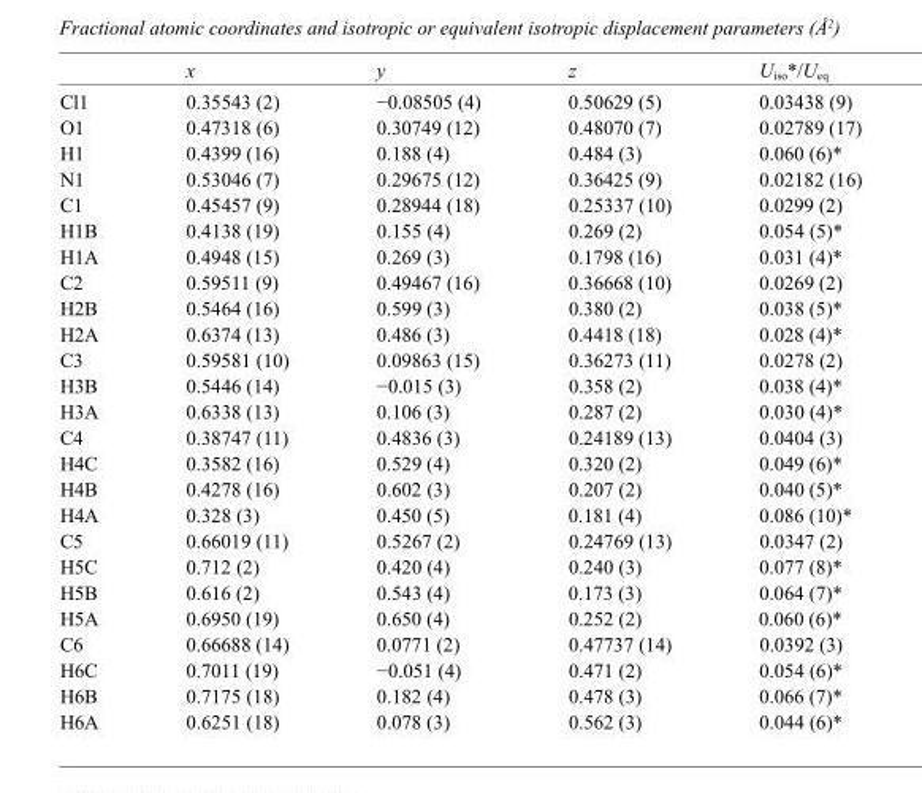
<table><thead><tr><td></td><td>x</td><td>y</td><td>z</td><td>U<sub>iso</sub>*/U<sub>eq</sub></td></tr></thead><tbody><tr><td>Cl1</td><td>0.35543 (2)</td><td>−0.08505 (4)</td><td>0.50629 (5)</td><td>0.03438 (9)</td></tr><tr><td>O1</td><td>0.47318 (6)</td><td>0.30749 (12)</td><td>0.48070 (7)</td><td>0.02789 (17)</td></tr><tr><td>H1</td><td>0.4399 (16)</td><td>0.188 (4)</td><td>0.484 (3)</td><td>0.060 (6)*</td></tr><tr><td>N1</td><td>0.53046 (7)</td><td>0.29675 (12)</td><td>0.36425 (9)</td><td>0.02182 (16)</td></tr><tr><td>C1</td><td>0.45457 (9)</td><td>0.28944 (18)</td><td>0.25337 (10)</td><td>0.0299 (2)</td></tr><tr><td>H1B</td><td>0.4138 (19)</td><td>0.155 (4)</td><td>0.269 (2)</td><td>0.054 (5)*</td></tr><tr><td>H1A</td><td>0.4948 (15)</td><td>0.269 (3)</td><td>0.1798 (16)</td><td>0.031 (4)*</td></tr><tr><td>C2</td><td>0.59511 (9)</td><td>0.49467 (16)</td><td>0.36668 (10)</td><td>0.0269 (2)</td></tr><tr><td>H2B</td><td>0.5464 (16)</td><td>0.599 (3)</td><td>0.380 (2)</td><td>0.038 (5)*</td></tr><tr><td>H2A</td><td>0.6374 (13)</td><td>0.486 (3)</td><td>0.4418 (18)</td><td>0.028 (4)*</td></tr><tr><td>C3</td><td>0.59581 (10)</td><td>0.09863 (15)</td><td>0.36273 (11)</td><td>0.0278 (2)</td></tr><tr><td>H3B</td><td>0.5446 (14)</td><td>−0.015 (3)</td><td>0.358 (2)</td><td>0.038 (4)*</td></tr><tr><td>H3A</td><td>0.6338 (13)</td><td>0.106 (3)</td><td>0.287 (2)</td><td>0.030 (4)*</td></tr><tr><td>C4</td><td>0.38747 (11)</td><td>0.4836 (3)</td><td>0.24189 (13)</td><td>0.0404 (3)</td></tr><tr><td>H4C</td><td>0.3582 (16)</td><td>0.529 (4)</td><td>0.320 (2)</td><td>0.049 (6)*</td></tr><tr><td>H4B</td><td>0.4278 (16)</td><td>0.602 (3)</td><td>0.207 (2)</td><td>0.040 (5)*</td></tr><tr><td>H4A</td><td>0.328 (3)</td><td>0.450 (5)</td><td>0.181 (4)</td><td>0.086 (10)*</td></tr><tr><td>C5</td><td>0.66019 (11)</td><td>0.5267 (2)</td><td>0.24769 (13)</td><td>0.0347 (2)</td></tr><tr><td>H5C</td><td>0.712 (2)</td><td>0.420 (4)</td><td>0.240 (3)</td><td>0.077 (8)*</td></tr><tr><td>H5B</td><td>0.616 (2)</td><td>0.543 (4)</td><td>0.173 (3)</td><td>0.064 (7)*</td></tr><tr><td>H5A</td><td>0.6950 (19)</td><td>0.650 (4)</td><td>0.252 (2)</td><td>0.060 (6)*</td></tr><tr><td>C6</td><td>0.66688 (14)</td><td>0.0771 (2)</td><td>0.47737 (14)</td><td>0.0392 (3)</td></tr><tr><td>H6C</td><td>0.7011 (19)</td><td>−0.051 (4)</td><td>0.471 (2)</td><td>0.054 (6)*</td></tr><tr><td>H6B</td><td>0.7175 (18)</td><td>0.182 (4)</td><td>0.478 (3)</td><td>0.066 (7)*</td></tr><tr><td>H6A</td><td>0.6251 (18)</td><td>0.078 (3)</td><td>0.562 (3)</td><td>0.044 (6)*</td></tr></tbody></table>